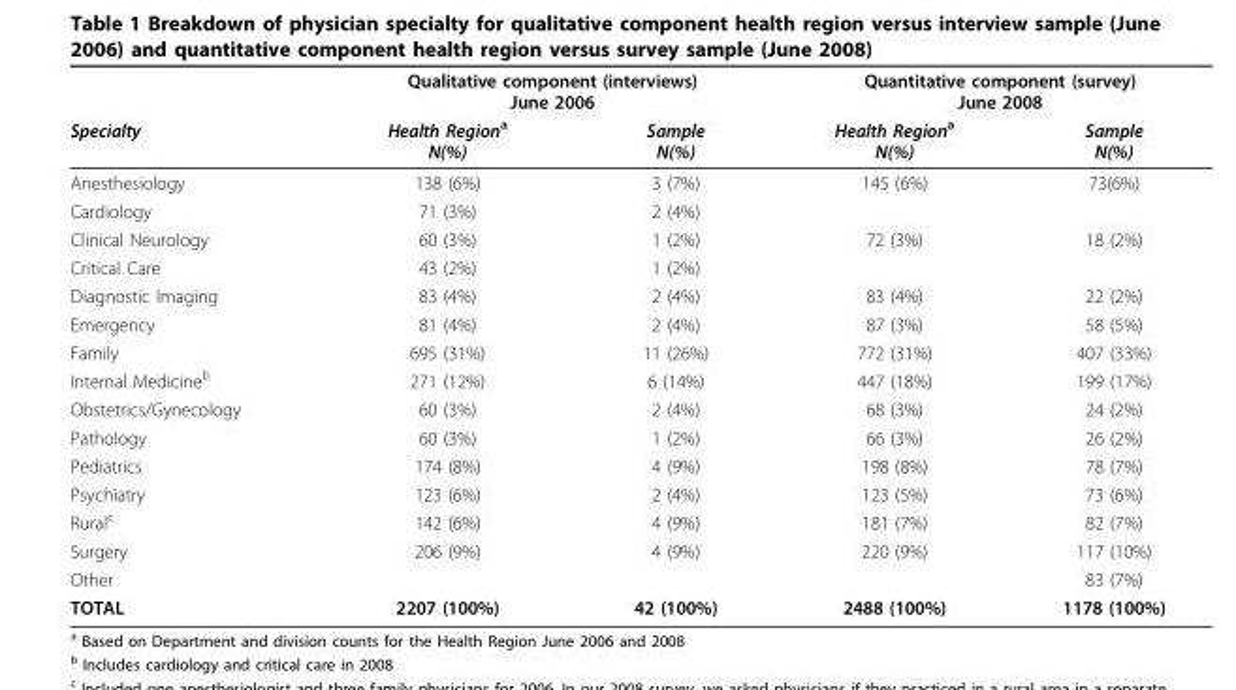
<table><thead><tr><td rowspan="2">Specialty</td><td colspan="2">Qualitative component (interviews) June 2006</td><td colspan="2">Quantitative component (survey) June 2008</td></tr><tr><td>Health Region<sup>a</sup> N(%)</td><td>Sample N(%)</td><td>Health Region<sup>a</sup> N(%)</td><td>Sample N(%)</td></tr></thead><tbody><tr><td>Anesthesiology</td><td>138 (6%)</td><td>3 (7%)</td><td>145 (6%)</td><td>73(6%)</td></tr><tr><td>Cardiology</td><td>71 (3%)</td><td>2 (4%)</td><td></td><td></td></tr><tr><td>Clinical Neurology</td><td>60 (3%)</td><td>1 (2%)</td><td>72 (3%)</td><td>18 (2%)</td></tr><tr><td>Critical Care</td><td>43 (2%)</td><td>1 (2%)</td><td></td><td></td></tr><tr><td>Diagnostic Imaging</td><td>83 (4%)</td><td>2 (4%)</td><td>83 (4%)</td><td>22 (2%)</td></tr><tr><td>Emergency</td><td>81 (4%)</td><td>2 (4%)</td><td>87 (3%)</td><td>58 (5%)</td></tr><tr><td>Family</td><td>695 (31%)</td><td>11 (26%)</td><td>772 (31%)</td><td>407 (33%)</td></tr><tr><td>Internal Medicine<sup>b</sup></td><td>271 (12%)</td><td>6 (14%)</td><td>447 (18%)</td><td>199 (17%)</td></tr><tr><td>Obstetrics/Gynecology</td><td>60 (3%)</td><td>2 (4%)</td><td>68 (3%)</td><td>24 (2%)</td></tr><tr><td>Pathology</td><td>60 (3%)</td><td>1 (2%)</td><td>66 (3%)</td><td>26 (2%)</td></tr><tr><td>Pediatrics</td><td>174 (8%)</td><td>4 (9%)</td><td>198 (8%)</td><td>78 (7%)</td></tr><tr><td>Psychiatry</td><td>123 (6%)</td><td>2 (4%)</td><td>123 (5%)</td><td>73 (6%)</td></tr><tr><td>Rural<sup>c</sup></td><td>142 (6%)</td><td>4 (9%)</td><td>181 (7%)</td><td>82 (7%)</td></tr><tr><td>Surgery</td><td>206 (9%)</td><td>4 (9%)</td><td>220 (9%)</td><td>117 (10%)</td></tr><tr><td>Other</td><td></td><td></td><td></td><td>83 (7%)</td></tr><tr><td>TOTAL</td><td>2207 (100%)</td><td>42 (100%)</td><td>2488 (100%)</td><td>1178 (100%)</td></tr></tbody></table>